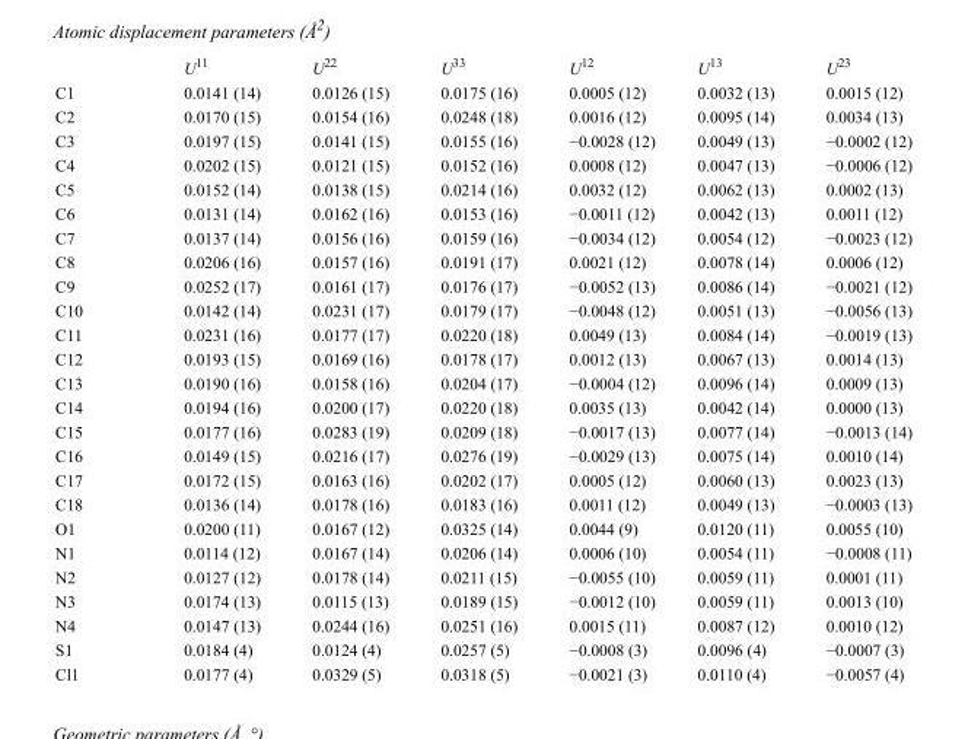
<table><thead><tr><td></td><td>U<sup>11</sup></td><td>U<sup>22</sup></td><td>U<sup>33</sup></td><td>U<sup>12</sup></td><td>U<sup>13</sup></td><td>U<sup>23</sup></td></tr></thead><tbody><tr><td>C1</td><td>0.0141 (14)</td><td>0.0126 (15)</td><td>0.0175 (16)</td><td>0.0005 (12)</td><td>0.0032 (13)</td><td>0.0015 (12)</td></tr><tr><td>C2</td><td>0.0170 (15)</td><td>0.0154 (16)</td><td>0.0248 (18)</td><td>0.0016 (12)</td><td>0.0095 (14)</td><td>0.0034 (13)</td></tr><tr><td>C3</td><td>0.0197 (15)</td><td>0.0141 (15)</td><td>0.0155 (16)</td><td>−0.0028 (12)</td><td>0.0049 (13)</td><td>−0.0002 (12)</td></tr><tr><td>C4</td><td>0.0202 (15)</td><td>0.0121 (15)</td><td>0.0152 (16)</td><td>0.0008 (12)</td><td>0.0047 (13)</td><td>−0.0006 (12)</td></tr><tr><td>C5</td><td>0.0152 (14)</td><td>0.0138 (15)</td><td>0.0214 (16)</td><td>0.0032 (12)</td><td>0.0062 (13)</td><td>0.0002 (13)</td></tr><tr><td>C6</td><td>0.0131 (14)</td><td>0.0162 (16)</td><td>0.0153 (16)</td><td>−0.0011 (12)</td><td>0.0042 (13)</td><td>0.0011 (12)</td></tr><tr><td>C7</td><td>0.0137 (14)</td><td>0.0156 (16)</td><td>0.0159 (16)</td><td>−0.0034 (12)</td><td>0.0054 (12)</td><td>−0.0023 (12)</td></tr><tr><td>C8</td><td>0.0206 (16)</td><td>0.0157 (16)</td><td>0.0191 (17)</td><td>0.0021 (12)</td><td>0.0078 (14)</td><td>0.0006 (12)</td></tr><tr><td>C9</td><td>0.0252 (17)</td><td>0.0161 (17)</td><td>0.0176 (17)</td><td>−0.0052 (13)</td><td>0.0086 (14)</td><td>−0.0021 (12)</td></tr><tr><td>C10</td><td>0.0142 (14)</td><td>0.0231 (17)</td><td>0.0179 (17)</td><td>−0.0048 (12)</td><td>0.0051 (13)</td><td>−0.0056 (13)</td></tr><tr><td>C11</td><td>0.0231 (16)</td><td>0.0177 (17)</td><td>0.0220 (18)</td><td>0.0049 (13)</td><td>0.0084 (14)</td><td>−0.0019 (13)</td></tr><tr><td>C12</td><td>0.0193 (15)</td><td>0.0169 (16)</td><td>0.0178 (17)</td><td>0.0012 (13)</td><td>0.0067 (13)</td><td>0.0014 (13)</td></tr><tr><td>C13</td><td>0.0190 (16)</td><td>0.0158 (16)</td><td>0.0204 (17)</td><td>−0.0004 (12)</td><td>0.0096 (14)</td><td>0.0009 (13)</td></tr><tr><td>C14</td><td>0.0194 (16)</td><td>0.0200 (17)</td><td>0.0220 (18)</td><td>0.0035 (13)</td><td>0.0042 (14)</td><td>0.0000 (13)</td></tr><tr><td>C15</td><td>0.0177 (16)</td><td>0.0283 (19)</td><td>0.0209 (18)</td><td>−0.0017 (13)</td><td>0.0077 (14)</td><td>−0.0013 (14)</td></tr><tr><td>C16</td><td>0.0149 (15)</td><td>0.0216 (17)</td><td>0.0276 (19)</td><td>−0.0029 (13)</td><td>0.0075 (14)</td><td>0.0010 (14)</td></tr><tr><td>C17</td><td>0.0172 (15)</td><td>0.0163 (16)</td><td>0.0202 (17)</td><td>0.0005 (12)</td><td>0.0060 (13)</td><td>0.0023 (13)</td></tr><tr><td>C18</td><td>0.0136 (14)</td><td>0.0178 (16)</td><td>0.0183 (16)</td><td>0.0011 (12)</td><td>0.0049 (13)</td><td>−0.0003 (13)</td></tr><tr><td>O1</td><td>0.0200 (11)</td><td>0.0167 (12)</td><td>0.0325 (14)</td><td>0.0044 (9)</td><td>0.0120 (11)</td><td>0.0055 (10)</td></tr><tr><td>N1</td><td>0.0114 (12)</td><td>0.0167 (14)</td><td>0.0206 (14)</td><td>0.0006 (10)</td><td>0.0054 (11)</td><td>−0.0008 (11)</td></tr><tr><td>N2</td><td>0.0127 (12)</td><td>0.0178 (14)</td><td>0.0211 (15)</td><td>−0.0055 (10)</td><td>0.0059 (11)</td><td>0.0001 (11)</td></tr><tr><td>N3</td><td>0.0174 (13)</td><td>0.0115 (13)</td><td>0.0189 (15)</td><td>−0.0012 (10)</td><td>0.0059 (11)</td><td>0.0013 (10)</td></tr><tr><td>N4</td><td>0.0147 (13)</td><td>0.0244 (16)</td><td>0.0251 (16)</td><td>0.0015 (11)</td><td>0.0087 (12)</td><td>0.0010 (12)</td></tr><tr><td>S1</td><td>0.0184 (4)</td><td>0.0124 (4)</td><td>0.0257 (5)</td><td>−0.0008 (3)</td><td>0.0096 (4)</td><td>−0.0007 (3)</td></tr><tr><td>Cl1</td><td>0.0177 (4)</td><td>0.0329 (5)</td><td>0.0318 (5)</td><td>−0.0021 (3)</td><td>0.0110 (4)</td><td>−0.0057 (4)</td></tr></tbody></table>